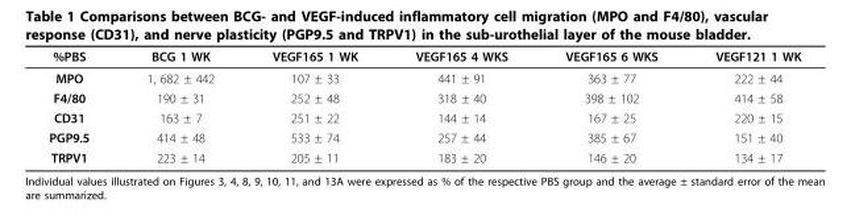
<table><thead><tr><td>%PBS</td><td>BCG 1 WK</td><td>VEGF165 1 WK</td><td>VEGF165 4 WKS</td><td>VEGF165 6 WKS</td><td>VEGF121 1 WK</td></tr></thead><tbody><tr><td>MPO</td><td>1, 682 ± 442</td><td>107 ± 33</td><td>441 ± 91</td><td>363 ± 77</td><td>222 ± 44</td></tr><tr><td>F4/80</td><td>190 ± 31</td><td>252 ± 48</td><td>318 ± 40</td><td>398 ± 102</td><td>414 ± 58</td></tr><tr><td>CD31</td><td>163 ± 7</td><td>251 ± 22</td><td>144 ± 14</td><td>167 ± 25</td><td>220 ± 15</td></tr><tr><td>PGP9.5</td><td>414 ± 48</td><td>533 ± 74</td><td>257 ± 44</td><td>385 ± 67</td><td>151 ± 40</td></tr><tr><td>TRPV1</td><td>223 ± 14</td><td>205 ± 11</td><td>183 ± 20</td><td>146 ± 20</td><td>134 ± 17</td></tr></tbody></table>